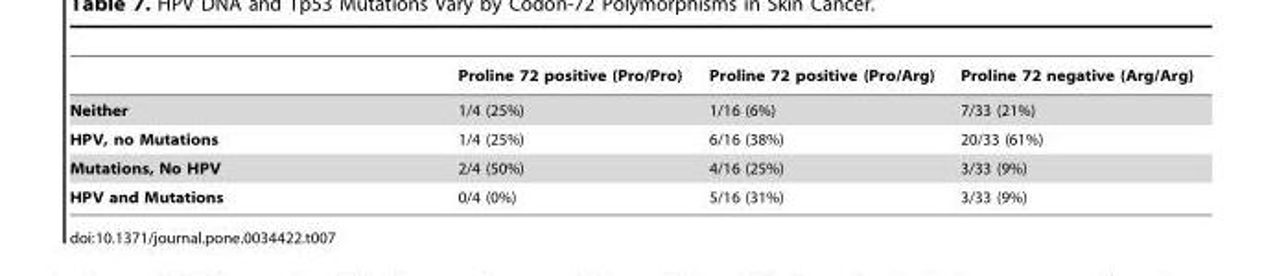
<table><thead><tr><td></td><td>Proline 72 positive (Pro/Pro)</td><td>Proline 72 positive (Pro/Arg)</td><td>Proline 72 negative (Arg/Arg)</td></tr></thead><tbody><tr><td>Neither</td><td>1/4 (25%)</td><td>1/16 (6%)</td><td>7/33 (21%)</td></tr><tr><td>HPV, no Mutations</td><td>1/4 (25%)</td><td>6/16 (38%)</td><td>20/33 (61%)</td></tr><tr><td>Mutations, No HPV</td><td>2/4 (50%)</td><td>4/16 (25%)</td><td>3/33 (9%)</td></tr><tr><td>HPV and Mutations</td><td>0/4 (0%)</td><td>5/16 (31%)</td><td>3/33 (9%)</td></tr></tbody></table>